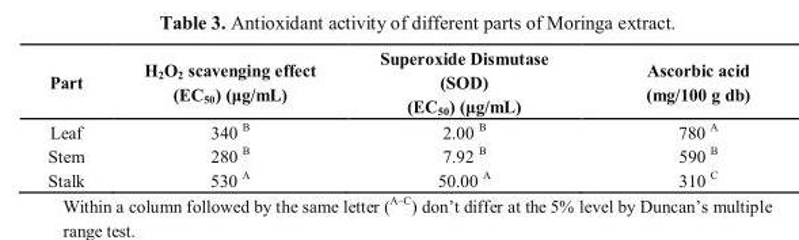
<table><thead><tr><td>Part</td><td>H<sub>2</sub>O<sub>2</sub> scavenging effect (EC<sub>50</sub>) (μg/mL)</td><td>Superoxide Dismutase (SOD) (EC<sub>50</sub>) (μg/mL)</td><td>Ascorbic acid (mg/100 g db)</td></tr></thead><tbody><tr><td>Leaf</td><td>340 <sup>B</sup></td><td>2.00 <sup>B</sup></td><td>780 <sup>A</sup></td></tr><tr><td>Stem</td><td>280 <sup>B</sup></td><td>7.92 <sup>B</sup></td><td>590 <sup>B</sup></td></tr><tr><td>Stalk</td><td>530 <sup>A</sup></td><td>50.00 <sup>A</sup></td><td>310 <sup>C</sup></td></tr></tbody></table>